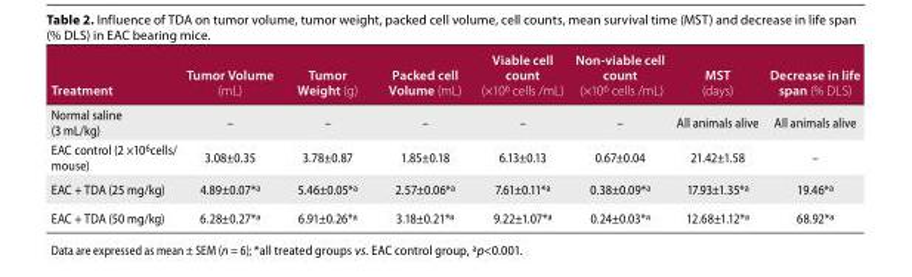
<table><thead><tr><td>Treatment</td><td>Tumor Volume (mL)</td><td>Tumor Weight (g)</td><td>Packed cell Volume (mL)</td><td>Viable cell count (×10<sup>6</sup> cells /mL)</td><td>Non-viable cell count (×10<sup>6</sup> cells /mL)</td><td>MST (days)</td><td>Decrease in life span (% DLS)</td></tr></thead><tbody><tr><td>Normal saline (3 mL/kg)</td><td>–</td><td>–</td><td>–</td><td>–</td><td>–</td><td>All animals alive</td><td>All animals alive</td></tr><tr><td>EAC control (2 ×10<sup>6</sup>cells/ mouse)</td><td>3.08±0.35</td><td>3.78±0.87</td><td>1.85±0.18</td><td>6.13±0.13</td><td>0.67±0.04</td><td>21.42±1.58</td><td>–</td></tr><tr><td>EAC + TDA (25 mg/kg)</td><td>4.89±0.07*<sup>a</sup></td><td>5.46±0.05*<sup>a</sup></td><td>2.57±0.06*<sup>a</sup></td><td>7.61±0.11*<sup>a</sup></td><td>0.38±0.09*<sup>a</sup></td><td>17.93±1.35*<sup>a</sup></td><td>19.46*<sup>a</sup></td></tr><tr><td>EAC + TDA (50 mg/kg)</td><td>6.28±0.27*<sup>a</sup></td><td>6.91±0.26*<sup>a</sup></td><td>3.18±0.21*<sup>a</sup></td><td>9.22±1.07*<sup>a</sup></td><td>0.24±0.03*<sup>a</sup></td><td>12.68±1.12*<sup>a</sup></td><td>68.92*<sup>a</sup></td></tr></tbody></table>